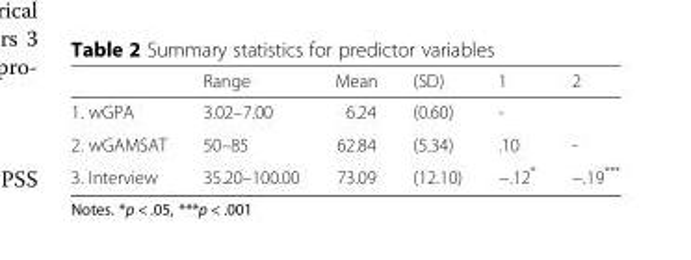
<table><thead><tr><td></td><td>Range</td><td>Mean</td><td>(SD)</td><td>1</td><td>2</td></tr></thead><tbody><tr><td>1. wGPA</td><td>3.02–7.00</td><td>6.24</td><td>(0.60)</td><td>-</td><td></td></tr><tr><td>2. wGAMSAT</td><td>50–85</td><td>62.84</td><td>(5.34)</td><td>.10</td><td>-</td></tr><tr><td>3. Interview</td><td>35.20–100.00</td><td>73.09</td><td>(12.10)</td><td>−.12*</td><td>−.19***</td></tr></tbody></table>